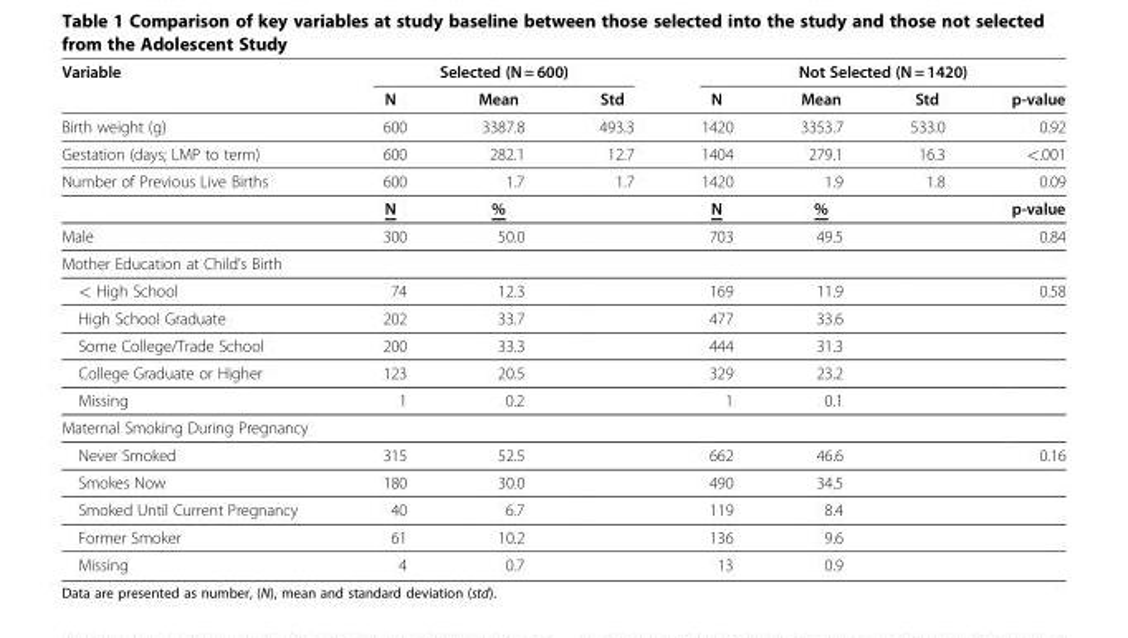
<table><thead><tr><td rowspan="2">Variable</td><td colspan="3">Selected (N = 600)</td><td colspan="4">Not Selected (N = 1420)</td></tr><tr><td>N</td><td>Mean</td><td>Std</td><td>N</td><td>Mean</td><td>Std</td><td>p-value</td></tr></thead><tbody><tr><td>Birth weight (g)</td><td>600</td><td>3387.8</td><td>493.3</td><td>1420</td><td>3353.7</td><td>533.0</td><td>0.92</td></tr><tr><td>Gestation (days; LMP to term)</td><td>600</td><td>282.1</td><td>12.7</td><td>1404</td><td>279.1</td><td>16.3</td><td>&lt;.001</td></tr><tr><td rowspan="2">Number of Previous Live Births</td><td>600</td><td>1.7</td><td>1.7</td><td>1420</td><td>1.9</td><td>1.8</td><td>0.09</td></tr><tr><td>N</td><td>%</td><td></td><td>N</td><td>%</td><td></td><td>p-value</td></tr><tr><td>Male</td><td>300</td><td>50.0</td><td></td><td>703</td><td>49.5</td><td></td><td>0.84</td></tr><tr><td colspan="8">Mother Education at Child’s Birth</td></tr><tr><td>&lt; High School</td><td>74</td><td>12.3</td><td></td><td>169</td><td>11.9</td><td></td><td>0.58</td></tr><tr><td>High School Graduate</td><td>202</td><td>33.7</td><td></td><td>477</td><td>33.6</td><td></td><td></td></tr><tr><td>Some College/Trade School</td><td>200</td><td>33.3</td><td></td><td>444</td><td>31.3</td><td></td><td></td></tr><tr><td>College Graduate or Higher</td><td>123</td><td>20.5</td><td></td><td>329</td><td>23.2</td><td></td><td></td></tr><tr><td>Missing</td><td>1</td><td>0.2</td><td></td><td>1</td><td>0.1</td><td></td><td></td></tr><tr><td colspan="8">Maternal Smoking During Pregnancy</td></tr><tr><td>Never Smoked</td><td>315</td><td>52.5</td><td></td><td>662</td><td>46.6</td><td></td><td>0.16</td></tr><tr><td>Smokes Now</td><td>180</td><td>30.0</td><td></td><td>490</td><td>34.5</td><td></td><td></td></tr><tr><td>Smoked Until Current Pregnancy</td><td>40</td><td>6.7</td><td></td><td>119</td><td>8.4</td><td></td><td></td></tr><tr><td>Former Smoker</td><td>61</td><td>10.2</td><td></td><td>136</td><td>9.6</td><td></td><td></td></tr><tr><td>Missing</td><td>4</td><td>0.7</td><td></td><td>13</td><td>0.9</td><td></td><td></td></tr></tbody></table>